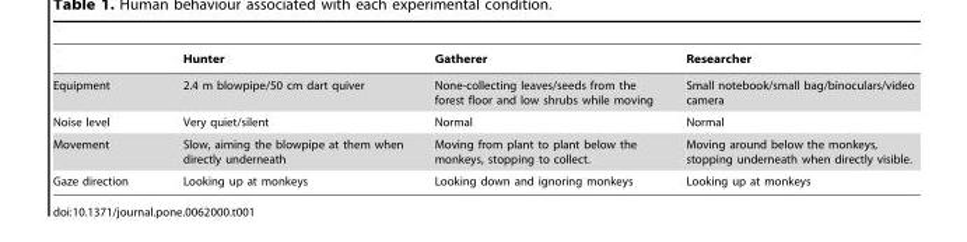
<table><thead><tr><td></td><td>Hunter</td><td>Gatherer</td><td>Researcher</td></tr></thead><tbody><tr><td>Equipment</td><td>2.4 m blowpipe/50 cm dart quiver</td><td>None-collecting leaves/seeds from the forest floor and low shrubs while moving</td><td>Small notebook/small bag/binoculars/video camera</td></tr><tr><td>Noise level</td><td>Very quiet/silent</td><td>Normal</td><td>Normal</td></tr><tr><td>Movement</td><td>Slow, aiming the blowpipe at them when directly underneath</td><td>Moving from plant to plant below the monkeys, stopping to collect.</td><td>Moving around below the monkeys, stopping underneath when directly visible.</td></tr><tr><td>Gaze direction</td><td>Looking up at monkeys</td><td>Looking down and ignoring monkeys</td><td>Looking up at monkeys</td></tr></tbody></table>